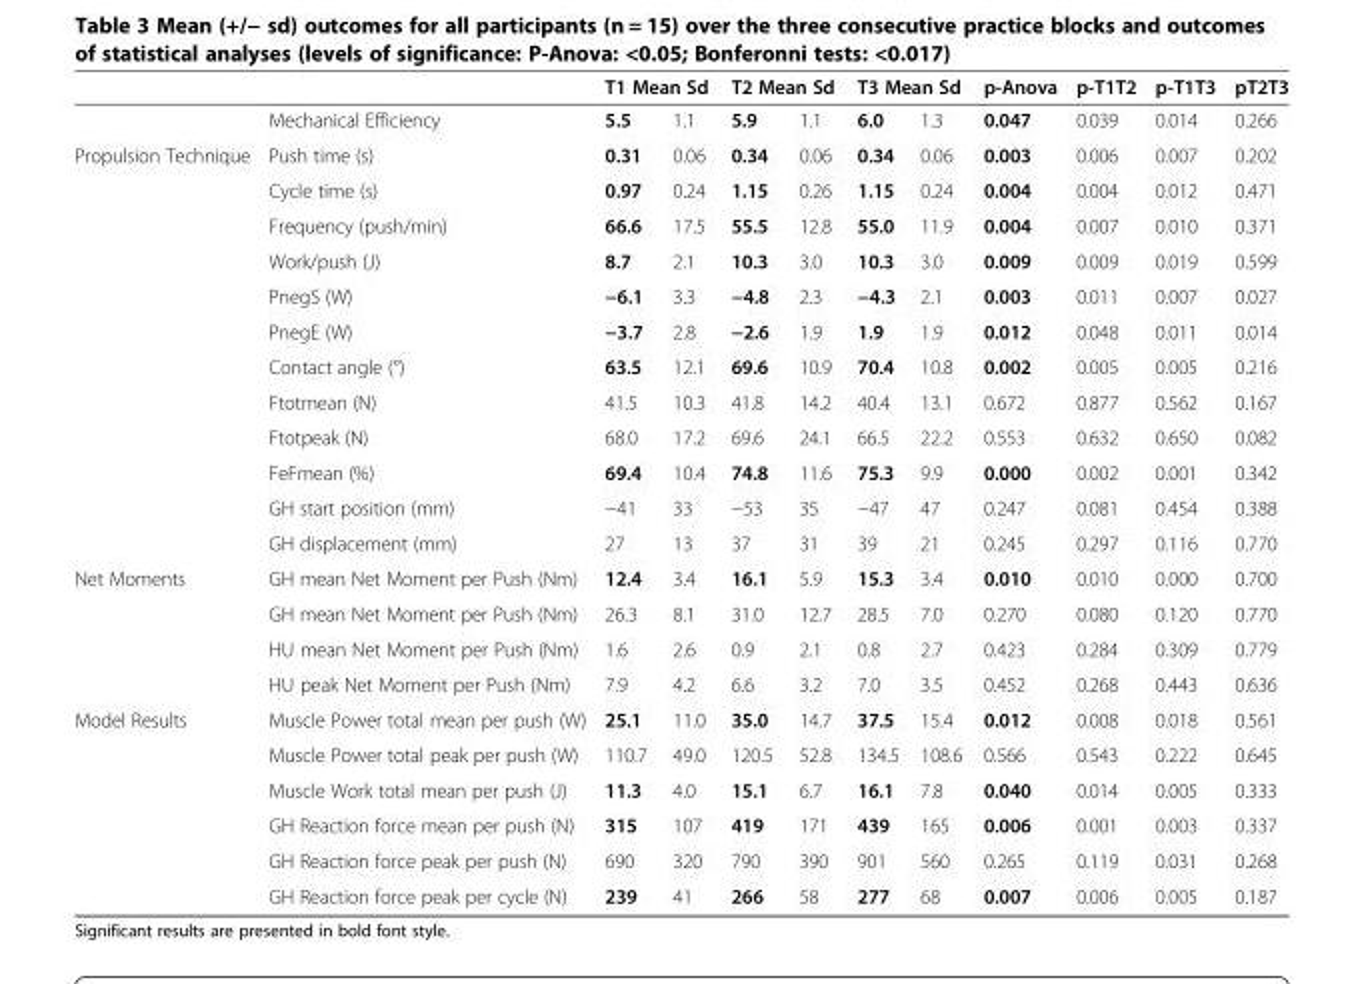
<table><thead><tr><td rowspan="2"></td><td rowspan="2">Mechanical Efficiency</td><td colspan="2">T1 Mean Sd</td><td colspan="2">T2 Mean Sd</td><td colspan="2">T3 Mean Sd</td><td rowspan="2">p-Anova 0.047</td><td rowspan="2">p-T1T2 0.039</td><td rowspan="2">p-T1T3 0.014</td><td rowspan="2">pT2T3 0.266</td></tr><tr><td>5.5</td><td>1.1</td><td>5.9</td><td>1.1</td><td>6.0</td><td>1.3</td></tr></thead><tbody><tr><td rowspan="12">Propulsion Technique</td><td>Push time (s)</td><td>0.31</td><td>0.06</td><td>0.34</td><td>0.06</td><td>0.34</td><td>0.06</td><td>0.003</td><td>0.006</td><td>0.007</td><td>0.202</td></tr><tr><td>Cycle time (s)</td><td>0.97</td><td>0.24</td><td>1.15</td><td>0.26</td><td>1.15</td><td>0.24</td><td>0.004</td><td>0.004</td><td>0.012</td><td>0.471</td></tr><tr><td>Frequency (push/min)</td><td>66.6</td><td>17.5</td><td>55.5</td><td>12.8</td><td>55.0</td><td>11.9</td><td>0.004</td><td>0.007</td><td>0.010</td><td>0.371</td></tr><tr><td>Work/push (J)</td><td>8.7</td><td>2.1</td><td>10.3</td><td>3.0</td><td>10.3</td><td>3.0</td><td>0.009</td><td>0.009</td><td>0.019</td><td>0.599</td></tr><tr><td>PnegS (W)</td><td>−6.1</td><td>3.3</td><td>−4.8</td><td>2.3</td><td>−4.3</td><td>2.1</td><td>0.003</td><td>0.011</td><td>0.007</td><td>0.027</td></tr><tr><td>PnegE (W)</td><td>−3.7</td><td>2.8</td><td>−2.6</td><td>1.9</td><td>1.9</td><td>1.9</td><td>0.012</td><td>0.048</td><td>0.011</td><td>0.014</td></tr><tr><td>Contact angle (°)</td><td>63.5</td><td>12.1</td><td>69.6</td><td>10.9</td><td>70.4</td><td>10.8</td><td>0.002</td><td>0.005</td><td>0.005</td><td>0.216</td></tr><tr><td>Ftotmean (N)</td><td>41.5</td><td>10.3</td><td>41.8</td><td>14.2</td><td>40.4</td><td>13.1</td><td>0.672</td><td>0.877</td><td>0.562</td><td>0.167</td></tr><tr><td>Ftotpeak (N)</td><td>68.0</td><td>17.2</td><td>69.6</td><td>24.1</td><td>66.5</td><td>22.2</td><td>0.553</td><td>0.632</td><td>0.650</td><td>0.082</td></tr><tr><td>FeFmean (%)</td><td>69.4</td><td>10.4</td><td>74.8</td><td>11.6</td><td>75.3</td><td>9.9</td><td>0.000</td><td>0.002</td><td>0.001</td><td>0.342</td></tr><tr><td>GH start position (mm)</td><td>−41</td><td>33</td><td>−53</td><td>35</td><td>−47</td><td>47</td><td>0.247</td><td>0.081</td><td>0.454</td><td>0.388</td></tr><tr><td>GH displacement (mm)</td><td>27</td><td>13</td><td>37</td><td>31</td><td>39</td><td>21</td><td>0.245</td><td>0.297</td><td>0.116</td><td>0.770</td></tr><tr><td rowspan="4">Net Moments</td><td>GH mean Net Moment per Push (Nm)</td><td>12.4</td><td>3.4</td><td>16.1</td><td>5.9</td><td>15.3</td><td>3.4</td><td>0.010</td><td>0.010</td><td>0.000</td><td>0.700</td></tr><tr><td>GH mean Net Moment per Push (Nm)</td><td>26.3</td><td>8.1</td><td>31.0</td><td>12.7</td><td>28.5</td><td>7.0</td><td>0.270</td><td>0.080</td><td>0.120</td><td>0.770</td></tr><tr><td>HU mean Net Moment per Push (Nm)</td><td>1.6</td><td>2.6</td><td>0.9</td><td>2.1</td><td>0.8</td><td>2.7</td><td>0.423</td><td>0.284</td><td>0.309</td><td>0.779</td></tr><tr><td>HU peak Net Moment per Push (Nm)</td><td>7.9</td><td>4.2</td><td>6.6</td><td>3.2</td><td>7.0</td><td>3.5</td><td>0.452</td><td>0.268</td><td>0.443</td><td>0.636</td></tr><tr><td rowspan="6">Model Results</td><td>Muscle Power total mean per push (W)</td><td>25.1</td><td>11.0</td><td>35.0</td><td>14.7</td><td>37.5</td><td>15.4</td><td>0.012</td><td>0.008</td><td>0.018</td><td>0.561</td></tr><tr><td>Muscle Power total peak per push (W)</td><td>110.7</td><td>49.0</td><td>120.5</td><td>52.8</td><td>134.5</td><td>108.6</td><td>0.566</td><td>0.543</td><td>0.222</td><td>0.645</td></tr><tr><td>Muscle Work total mean per push (J)</td><td>11.3</td><td>4.0</td><td>15.1</td><td>6.7</td><td>16.1</td><td>7.8</td><td>0.040</td><td>0.014</td><td>0.005</td><td>0.333</td></tr><tr><td>GH Reaction force mean per push (N)</td><td>315</td><td>107</td><td>419</td><td>171</td><td>439</td><td>165</td><td>0.006</td><td>0.001</td><td>0.003</td><td>0.337</td></tr><tr><td>GH Reaction force peak per push (N)</td><td>690</td><td>320</td><td>790</td><td>390</td><td>901</td><td>560</td><td>0.265</td><td>0.119</td><td>0.031</td><td>0.268</td></tr><tr><td>GH Reaction force peak per cycle (N)</td><td>239</td><td>41</td><td>266</td><td>58</td><td>277</td><td>68</td><td>0.007</td><td>0.006</td><td>0.005</td><td>0.187</td></tr></tbody></table>